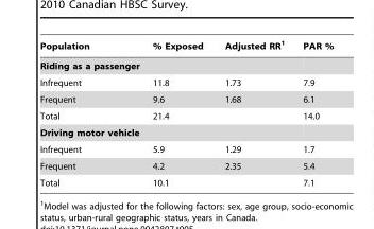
<table><thead><tr><td>Population</td><td>% Exposed</td><td>Adjusted RR<sup>1</sup></td><td>PAR %</td></tr></thead><tbody><tr><td colspan="4">Riding as a passenger</td></tr><tr><td>Infrequent</td><td>11.8</td><td>1.73</td><td>7.9</td></tr><tr><td>Frequent</td><td>9.6</td><td>1.68</td><td>6.1</td></tr><tr><td>Total</td><td>21.4</td><td></td><td>14.0</td></tr><tr><td colspan="4">Driving motor vehicle</td></tr><tr><td>Infrequent</td><td>5.9</td><td>1.29</td><td>1.7</td></tr><tr><td>Frequent</td><td>4.2</td><td>2.35</td><td>5.4</td></tr><tr><td>Total</td><td>10.1</td><td></td><td>7.1</td></tr></tbody></table>